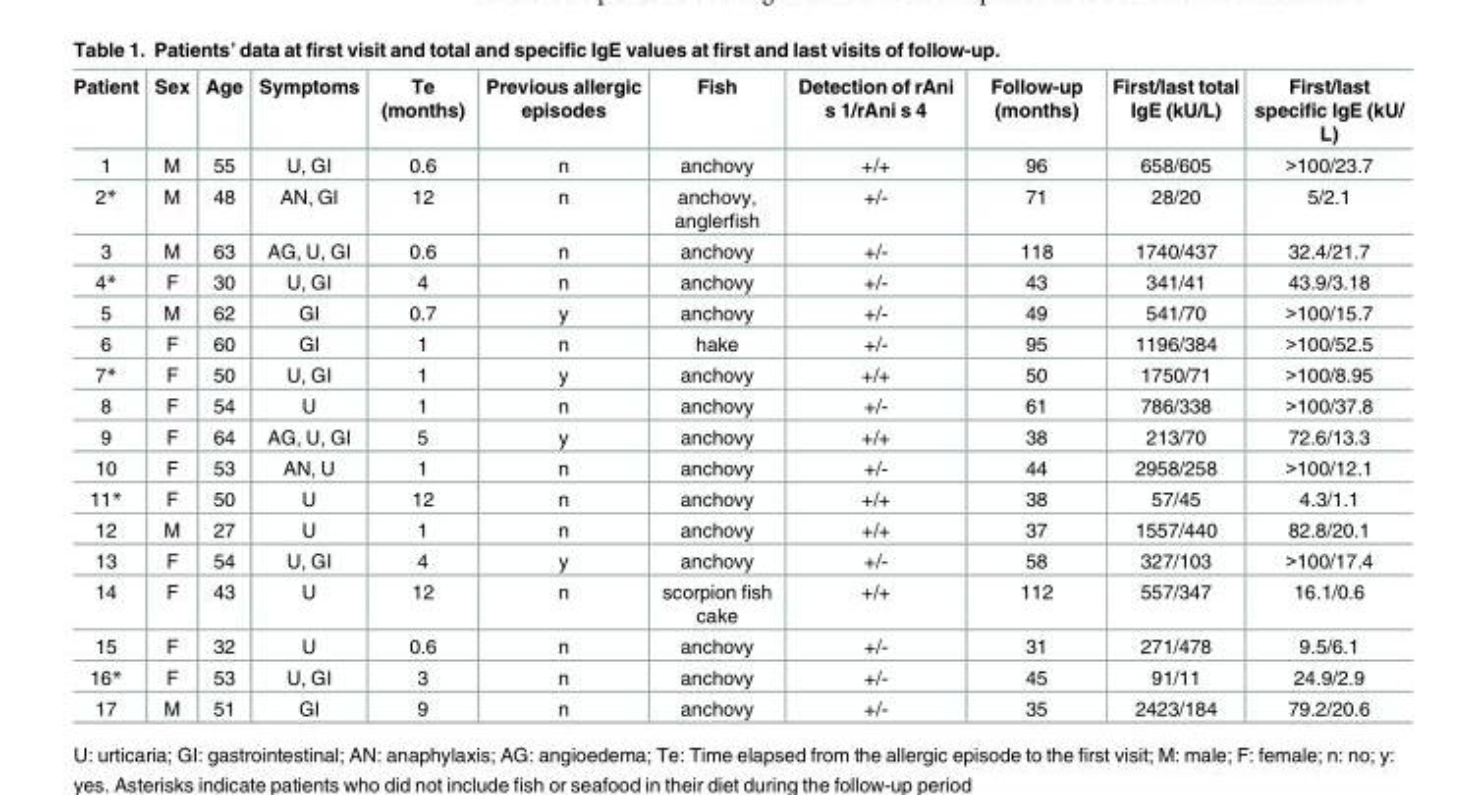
<table><thead><tr><td>Patient</td><td>Sex</td><td>Age</td><td>Symptoms</td><td>Te (months)</td><td>Previous allergic episodes</td><td>Fish</td><td>Detection of rAni s 1/rAni s 4</td><td>Follow-up (months)</td><td>First/last total IgE (kU/L)</td><td>First/last specific IgE (kU/ L)</td></tr></thead><tbody><tr><td>1</td><td>M</td><td>55</td><td>U, GI</td><td>0.6</td><td>n</td><td>anchovy</td><td>+/+</td><td>96</td><td>658/605</td><td>&gt;100/23.7</td></tr><tr><td>2*</td><td>M</td><td>48</td><td>AN, GI</td><td>12</td><td>n</td><td>anchovy, anglerfish</td><td>+/-</td><td>71</td><td>28/20</td><td>5/2.1</td></tr><tr><td>3</td><td>M</td><td>63</td><td>AG, U, GI</td><td>0.6</td><td>n</td><td>anchovy</td><td>+/-</td><td>118</td><td>1740/437</td><td>32.4/21.7</td></tr><tr><td>4*</td><td>F</td><td>30</td><td>U, GI</td><td>4</td><td>n</td><td>anchovy</td><td>+/-</td><td>43</td><td>341/41</td><td>43.9/3.18</td></tr><tr><td>5</td><td>M</td><td>62</td><td>GI</td><td>0.7</td><td>y</td><td>anchovy</td><td>+/-</td><td>49</td><td>541/70</td><td>&gt;100/15.7</td></tr><tr><td>6</td><td>F</td><td>60</td><td>GI</td><td>1</td><td>n</td><td>hake</td><td>+/-</td><td>95</td><td>1196/384</td><td>&gt;100/52.5</td></tr><tr><td>7*</td><td>F</td><td>50</td><td>U, GI</td><td>1</td><td>y</td><td>anchovy</td><td>+/+</td><td>50</td><td>1750/71</td><td>&gt;100/8.95</td></tr><tr><td>8</td><td>F</td><td>54</td><td>U</td><td>1</td><td>n</td><td>anchovy</td><td>+/-</td><td>61</td><td>786/338</td><td>&gt;100/37.8</td></tr><tr><td>9</td><td>F</td><td>64</td><td>AG, U, GI</td><td>5</td><td>y</td><td>anchovy</td><td>+/+</td><td>38</td><td>213/70</td><td>72.6/13.3</td></tr><tr><td>10</td><td>F</td><td>53</td><td>AN, U</td><td>1</td><td>n</td><td>anchovy</td><td>+/-</td><td>44</td><td>2958/258</td><td>&gt;100/12.1</td></tr><tr><td>11*</td><td>F</td><td>50</td><td>U</td><td>12</td><td>n</td><td>anchovy</td><td>+/+</td><td>38</td><td>57/45</td><td>4.3/1.1</td></tr><tr><td>12</td><td>M</td><td>27</td><td>U</td><td>1</td><td>n</td><td>anchovy</td><td>+/+</td><td>37</td><td>1557/440</td><td>82.8/20.1</td></tr><tr><td>13</td><td>F</td><td>54</td><td>U, GI</td><td>4</td><td>y</td><td>anchovy</td><td>+/-</td><td>58</td><td>327/103</td><td>&gt;100/17.4</td></tr><tr><td>14</td><td>F</td><td>43</td><td>U</td><td>12</td><td>n</td><td>scorpion fish cake</td><td>+/+</td><td>112</td><td>557/347</td><td>16.1/0.6</td></tr><tr><td>15</td><td>F</td><td>32</td><td>U</td><td>0.6</td><td>n</td><td>anchovy</td><td>+/-</td><td>31</td><td>271/478</td><td>9.5/6.1</td></tr><tr><td>16*</td><td>F</td><td>53</td><td>U, GI</td><td>3</td><td>n</td><td>anchovy</td><td>+/-</td><td>45</td><td>91/11</td><td>24.9/2.9</td></tr><tr><td>17</td><td>M</td><td>51</td><td>GI</td><td>9</td><td>n</td><td>anchovy</td><td>+/-</td><td>35</td><td>2423/184</td><td>79.2/20.6</td></tr></tbody></table>